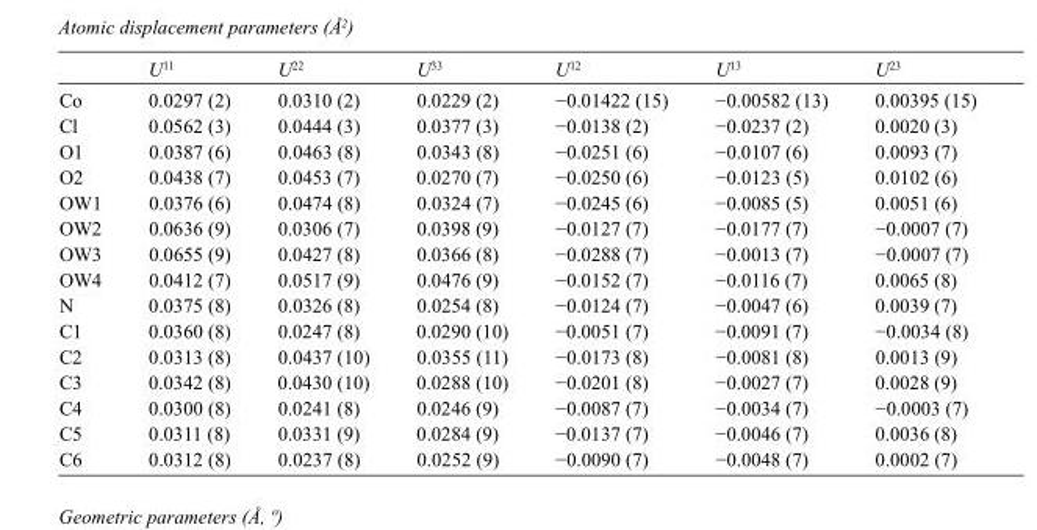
<table><thead><tr><td></td><td>U<sup>11</sup></td><td>U<sup>22</sup></td><td>U<sup>33</sup></td><td>U<sup>12</sup></td><td>U<sup>13</sup></td><td>U<sup>23</sup></td></tr></thead><tbody><tr><td>Co</td><td>0.0297 (2)</td><td>0.0310 (2)</td><td>0.0229 (2)</td><td>−0.01422 (15)</td><td>−0.00582 (13)</td><td>0.00395 (15)</td></tr><tr><td>Cl</td><td>0.0562 (3)</td><td>0.0444 (3)</td><td>0.0377 (3)</td><td>−0.0138 (2)</td><td>−0.0237 (2)</td><td>0.0020 (3)</td></tr><tr><td>O1</td><td>0.0387 (6)</td><td>0.0463 (8)</td><td>0.0343 (8)</td><td>−0.0251 (6)</td><td>−0.0107 (6)</td><td>0.0093 (7)</td></tr><tr><td>O2</td><td>0.0438 (7)</td><td>0.0453 (7)</td><td>0.0270 (7)</td><td>−0.0250 (6)</td><td>−0.0123 (5)</td><td>0.0102 (6)</td></tr><tr><td>OW1</td><td>0.0376 (6)</td><td>0.0474 (8)</td><td>0.0324 (7)</td><td>−0.0245 (6)</td><td>−0.0085 (5)</td><td>0.0051 (6)</td></tr><tr><td>OW2</td><td>0.0636 (9)</td><td>0.0306 (7)</td><td>0.0398 (9)</td><td>−0.0127 (7)</td><td>−0.0177 (7)</td><td>−0.0007 (7)</td></tr><tr><td>OW3</td><td>0.0655 (9)</td><td>0.0427 (8)</td><td>0.0366 (8)</td><td>−0.0288 (7)</td><td>−0.0013 (7)</td><td>−0.0007 (7)</td></tr><tr><td>OW4</td><td>0.0412 (7)</td><td>0.0517 (9)</td><td>0.0476 (9)</td><td>−0.0152 (7)</td><td>−0.0116 (7)</td><td>0.0065 (8)</td></tr><tr><td>N</td><td>0.0375 (8)</td><td>0.0326 (8)</td><td>0.0254 (8)</td><td>−0.0124 (7)</td><td>−0.0047 (6)</td><td>0.0039 (7)</td></tr><tr><td>C1</td><td>0.0360 (8)</td><td>0.0247 (8)</td><td>0.0290 (10)</td><td>−0.0051 (7)</td><td>−0.0091 (7)</td><td>−0.0034 (8)</td></tr><tr><td>C2</td><td>0.0313 (8)</td><td>0.0437 (10)</td><td>0.0355 (11)</td><td>−0.0173 (8)</td><td>−0.0081 (8)</td><td>0.0013 (9)</td></tr><tr><td>C3</td><td>0.0342 (8)</td><td>0.0430 (10)</td><td>0.0288 (10)</td><td>−0.0201 (8)</td><td>−0.0027 (7)</td><td>0.0028 (9)</td></tr><tr><td>C4</td><td>0.0300 (8)</td><td>0.0241 (8)</td><td>0.0246 (9)</td><td>−0.0087 (7)</td><td>−0.0034 (7)</td><td>−0.0003 (7)</td></tr><tr><td>C5</td><td>0.0311 (8)</td><td>0.0331 (9)</td><td>0.0284 (9)</td><td>−0.0137 (7)</td><td>−0.0046 (7)</td><td>0.0036 (8)</td></tr><tr><td>C6</td><td>0.0312 (8)</td><td>0.0237 (8)</td><td>0.0252 (9)</td><td>−0.0090 (7)</td><td>−0.0048 (7)</td><td>0.0002 (7)</td></tr></tbody></table>